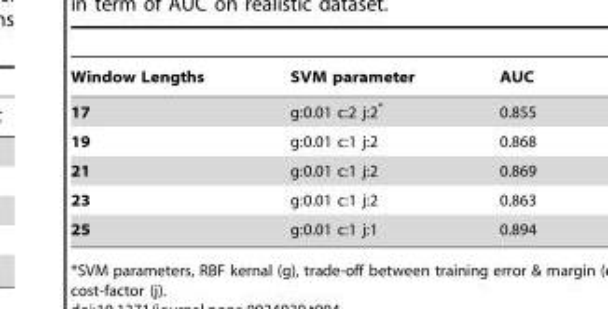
<table><thead><tr><td>Window Lengths</td><td>SVM parameter</td><td>AUC</td></tr></thead><tbody><tr><td>17</td><td>g:0.01 c:2 j:2*</td><td>0.855</td></tr><tr><td>19</td><td>g:0.01 c:1 j:2</td><td>0.868</td></tr><tr><td>21</td><td>g:0.01 c:1 j:2</td><td>0.869</td></tr><tr><td>23</td><td>g:0.01 c:1 j:2</td><td>0.863</td></tr><tr><td>25</td><td>g:0.01 c:1 j:1</td><td>0.894</td></tr></tbody></table>